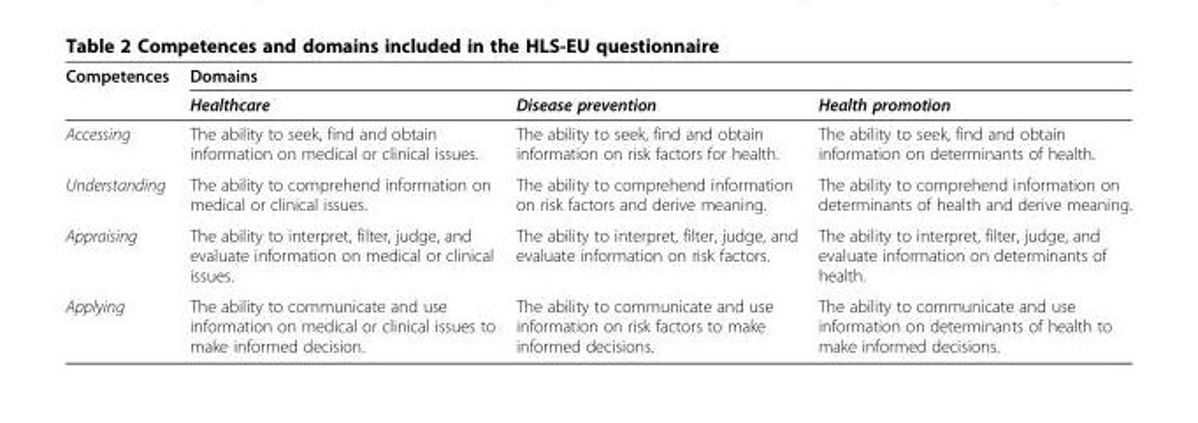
<table><thead><tr><td rowspan="2">Competences</td><td colspan="3">Domains</td></tr><tr><td>Healthcare</td><td>Disease prevention</td><td>Health promotion</td></tr></thead><tbody><tr><td>Accessing</td><td>The ability to seek, find and obtain information on medical or clinical issues.</td><td>The ability to seek, find and obtain information on risk factors for health.</td><td>The ability to seek, find and obtain information on determinants of health.</td></tr><tr><td>Understanding</td><td>The ability to comprehend information on medical or clinical issues.</td><td>The ability to comprehend information on risk factors and derive meaning.</td><td>The ability to comprehend information on determinants of health and derive meaning.</td></tr><tr><td>Appraising</td><td>The ability to interpret, filter, judge, and evaluate information on medical or clinical issues.</td><td>The ability to interpret, filter, judge, and evaluate information on risk factors.</td><td>The ability to interpret, filter, judge, and evaluate information on determinants of health.</td></tr><tr><td>Applying</td><td>The ability to communicate and use information on medical or clinical issues to make informed decision.</td><td>The ability to communicate and use information on risk factors to make informed decisions.</td><td>The ability to communicate and use information on determinants of health to make informed decisions.</td></tr></tbody></table>